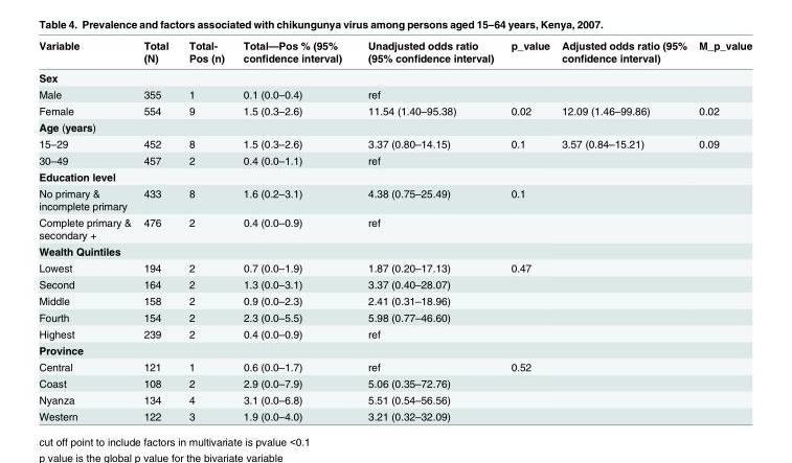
<table><thead><tr><td>Variable</td><td>Total (N)</td><td>Total- Pos (n)</td><td>Total—Pos % (95% confidence interval)</td><td>Unadjusted odds ratio (95% confidence interval)</td><td>p_value</td><td>Adjusted odds ratio (95% confidence interval)</td><td>M_p_value</td></tr></thead><tbody><tr><td colspan="8">Sex</td></tr><tr><td>Male</td><td>355</td><td>1</td><td>0.1 (0.0–0.4)</td><td>ref</td><td></td><td></td><td></td></tr><tr><td>Female</td><td>554</td><td>9</td><td>1.5 (0.3–2.6)</td><td>11.54 (1.40–95.38)</td><td>0.02</td><td>12.09 (1.46–99.86)</td><td>0.02</td></tr><tr><td colspan="8">Age (years)</td></tr><tr><td>15–29</td><td>452</td><td>8</td><td>1.5 (0.3–2.6)</td><td>3.37 (0.80–14.15)</td><td>0.1</td><td>3.57 (0.84–15.21)</td><td>0.09</td></tr><tr><td>30–49</td><td>457</td><td>2</td><td>0.4 (0.0–1.1)</td><td>ref</td><td></td><td></td><td></td></tr><tr><td colspan="8">Education level</td></tr><tr><td>No primary &amp; incomplete primary</td><td>433</td><td>8</td><td>1.6 (0.2–3.1)</td><td>4.38 (0.75–25.49)</td><td>0.1</td><td></td><td></td></tr><tr><td>Complete primary &amp; secondary +</td><td>476</td><td>2</td><td>0.4 (0.0–0.9)</td><td>ref</td><td></td><td></td><td></td></tr><tr><td colspan="8">Wealth Quintiles</td></tr><tr><td>Lowest</td><td>194</td><td>2</td><td>0.7 (0.0–1.9)</td><td>1.87 (0.20–17.13)</td><td>0.47</td><td></td><td></td></tr><tr><td>Second</td><td>164</td><td>2</td><td>1.3 (0.0–3.1)</td><td>3.37 (0.40–28.07)</td><td></td><td></td><td></td></tr><tr><td>Middle</td><td>158</td><td>2</td><td>0.9 (0.0–2.3)</td><td>2.41 (0.31–18.96)</td><td></td><td></td><td></td></tr><tr><td>Fourth</td><td>154</td><td>2</td><td>2.3 (0.0–5.5)</td><td>5.98 (0.77–46.60)</td><td></td><td></td><td></td></tr><tr><td>Highest</td><td>239</td><td>2</td><td>0.4 (0.0–0.9)</td><td>ref</td><td></td><td></td><td></td></tr><tr><td colspan="8">Province</td></tr><tr><td>Central</td><td>121</td><td>1</td><td>0.6 (0.0–1.7)</td><td>ref</td><td>0.52</td><td></td><td></td></tr><tr><td>Coast</td><td>108</td><td>2</td><td>2.9 (0.0–7.9)</td><td>5.06 (0.35–72.76)</td><td></td><td></td><td></td></tr><tr><td>Nyanza</td><td>134</td><td>4</td><td>3.1 (0.0–6.8)</td><td>5.51 (0.54–56.56)</td><td></td><td></td><td></td></tr><tr><td>Western</td><td>122</td><td>3</td><td>1.9 (0.0–4.0)</td><td>3.21 (0.32–32.09)</td><td></td><td></td><td></td></tr></tbody></table>